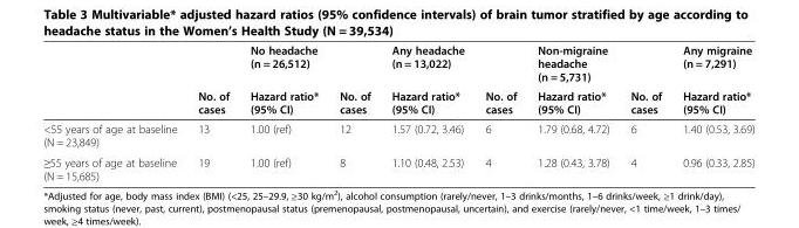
<table><thead><tr><td rowspan="2"></td><td rowspan="2">No. of cases</td><td rowspan="2">No headache (n = 26,512) Hazard ratio* (95% CI)</td><td rowspan="2">No. of cases</td><td rowspan="2">Any headache (n = 13,022) Hazard ratio* (95% CI)</td><td rowspan="2">No. of cases</td><td rowspan="2">Non-migraine headache (n = 5,731) Hazard ratio* (95% CI)</td><td rowspan="2">No. of cases</td><td rowspan="2">Any migraine (n = 7,291) Hazard ratio* (95% CI)</td></tr><tr></tr></thead><tbody><tr><td>&lt;55 years of age at baseline (N = 23,849)</td><td>13</td><td>1.00 (ref)</td><td>12</td><td>1.57 (0.72, 3.46)</td><td>6</td><td>1.79 (0.68, 4.72)</td><td>6</td><td>1.40 (0.53, 3.69)</td></tr><tr><td>≥55 years of age at baseline (N = 15,685)</td><td>19</td><td>1.00 (ref)</td><td>8</td><td>1.10 (0.48, 2.53)</td><td>4</td><td>1.28 (0.43, 3.78)</td><td>4</td><td>0.96 (0.33, 2.85)</td></tr></tbody></table>